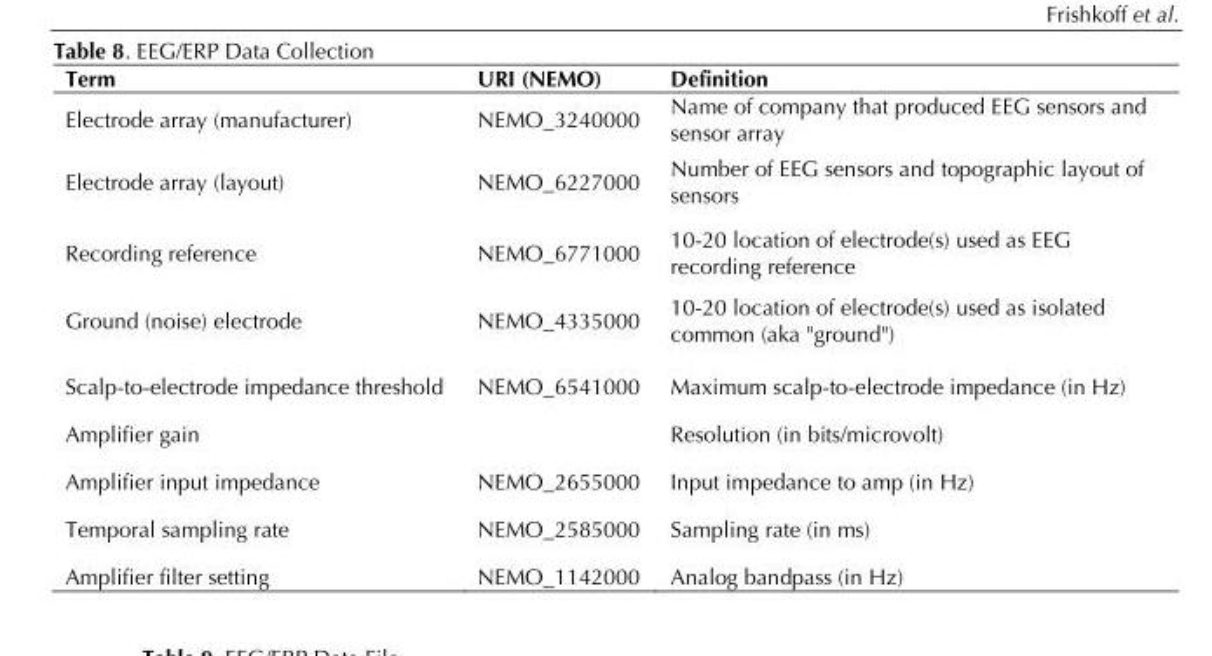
<table><thead><tr><td>Term</td><td>URI (NEMO)</td><td>Definition</td></tr></thead><tbody><tr><td>Electrode array (manufacturer)</td><td>NEMO_3240000</td><td>Name of company that produced EEG sensors and sensor array</td></tr><tr><td>Electrode array (layout)</td><td>NEMO_6227000</td><td>Number of EEG sensors and topographic layout of sensors</td></tr><tr><td>Recording reference</td><td>NEMO_6771000</td><td>10-20 location of electrode(s) used as EEG recording reference</td></tr><tr><td>Ground (noise) electrode</td><td>NEMO_4335000</td><td>10-20 location of electrode(s) used as isolated common (aka &quot;ground&quot;)</td></tr><tr><td>Scalp-to-electrode impedance threshold</td><td>NEMO_6541000</td><td>Maximum scalp-to-electrode impedance (in Hz)</td></tr><tr><td>Amplifier gain</td><td></td><td>Resolution (in bits/microvolt)</td></tr><tr><td>Amplifier input impedance</td><td>NEMO_2655000</td><td>Input impedance to amp (in Hz)</td></tr><tr><td>Temporal sampling rate</td><td>NEMO_2585000</td><td>Sampling rate (in ms)</td></tr><tr><td>Amplifier filter setting</td><td>NEMO_1142000</td><td>Analog bandpass (in Hz)</td></tr></tbody></table>